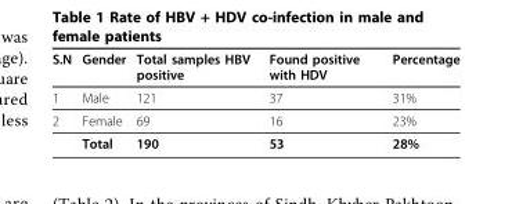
<table><thead><tr><td>S.N</td><td>Gender</td><td>Total samples HBV positive</td><td>Found positive with HDV</td><td>Percentage</td></tr></thead><tbody><tr><td>1</td><td>Male</td><td>121</td><td>37</td><td>31%</td></tr><tr><td rowspan="2">2</td><td>Female</td><td>69</td><td>16</td><td>23%</td></tr><tr><td>Total</td><td>190</td><td>53</td><td>28%</td></tr></tbody></table>